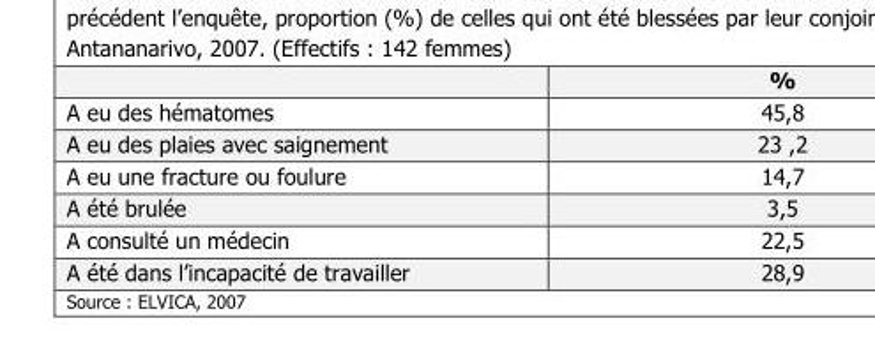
<table><thead><tr><td></td><td>%</td></tr></thead><tbody><tr><td>A eu des hématomes</td><td>45,8</td></tr><tr><td>A eu des plaies avec saignement</td><td>23 ,2</td></tr><tr><td>A eu une fracture ou foulure</td><td>14,7</td></tr><tr><td>A été brulée</td><td>3,5</td></tr><tr><td>A consulté un médecin</td><td>22,5</td></tr><tr><td>A été dans l’incapacité de travailler</td><td>28,9</td></tr></tbody></table>